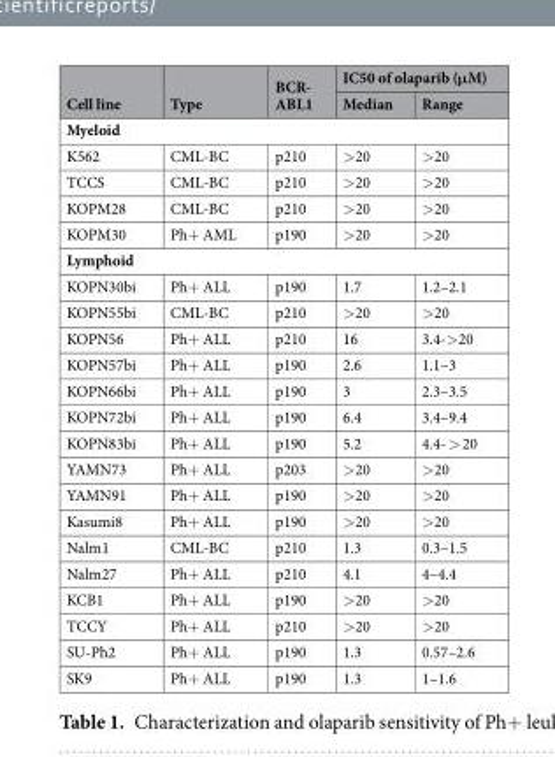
<table><thead><tr><td rowspan="2">Cell line</td><td rowspan="2">Type</td><td rowspan="2">BCR- ABL1</td><td colspan="2">IC50 of olaparib (μM)</td></tr><tr><td>Median</td><td>Range</td></tr></thead><tbody><tr><td colspan="5">Myeloid</td></tr><tr><td>K562</td><td>CML-BC</td><td>p210</td><td>&gt;20</td><td>&gt;20</td></tr><tr><td>TCCS</td><td>CML-BC</td><td>p210</td><td>&gt;20</td><td>&gt;20</td></tr><tr><td>KOPM28</td><td>CML-BC</td><td>p210</td><td>&gt;20</td><td>&gt;20</td></tr><tr><td>KOPM30</td><td>Ph+ AML</td><td>p190</td><td>&gt;20</td><td>&gt;20</td></tr><tr><td colspan="5">Lymphoid</td></tr><tr><td>KOPN30bi</td><td>Ph+ ALL</td><td>p190</td><td>1.7</td><td>1.2–2.1</td></tr><tr><td>KOPN55bi</td><td>CML-BC</td><td>p210</td><td>&gt;20</td><td>&gt;20</td></tr><tr><td>KOPN56</td><td>Ph+ ALL</td><td>p210</td><td>16</td><td>3.4-&gt;20</td></tr><tr><td>KOPN57bi</td><td>Ph+ ALL</td><td>p190</td><td>2.6</td><td>1.1–3</td></tr><tr><td>KOPN66bi</td><td>Ph+ ALL</td><td>p190</td><td>3</td><td>2.3–3.5</td></tr><tr><td>KOPN72bi</td><td>Ph+ ALL</td><td>p190</td><td>6.4</td><td>3.4–9.4</td></tr><tr><td>KOPN83bi</td><td>Ph+ ALL</td><td>p190</td><td>5.2</td><td>4.4- &gt; 20</td></tr><tr><td>YAMN73</td><td>Ph+ ALL</td><td>p203</td><td>&gt;20</td><td>&gt;20</td></tr><tr><td>YAMN91</td><td>Ph+ ALL</td><td>p190</td><td>&gt;20</td><td>&gt;20</td></tr><tr><td>Kasumi8</td><td>Ph+ ALL</td><td>p190</td><td>&gt;20</td><td>&gt;20</td></tr><tr><td>Nalm1</td><td>CML-BC</td><td>p210</td><td>1.3</td><td>0.3–1.5</td></tr><tr><td>Nalm27</td><td>Ph+ ALL</td><td>p210</td><td>4.1</td><td>4–4.4</td></tr><tr><td>KCB1</td><td>Ph+ ALL</td><td>p190</td><td>&gt;20</td><td>&gt;20</td></tr><tr><td>TCCY</td><td>Ph+ ALL</td><td>p210</td><td>&gt;20</td><td>&gt;20</td></tr><tr><td>SU-Ph2</td><td>Ph+ ALL</td><td>p190</td><td>1.3</td><td>0.57–2.6</td></tr><tr><td>SK9</td><td>Ph+ ALL</td><td>p190</td><td>1.3</td><td>1–1.6</td></tr></tbody></table>